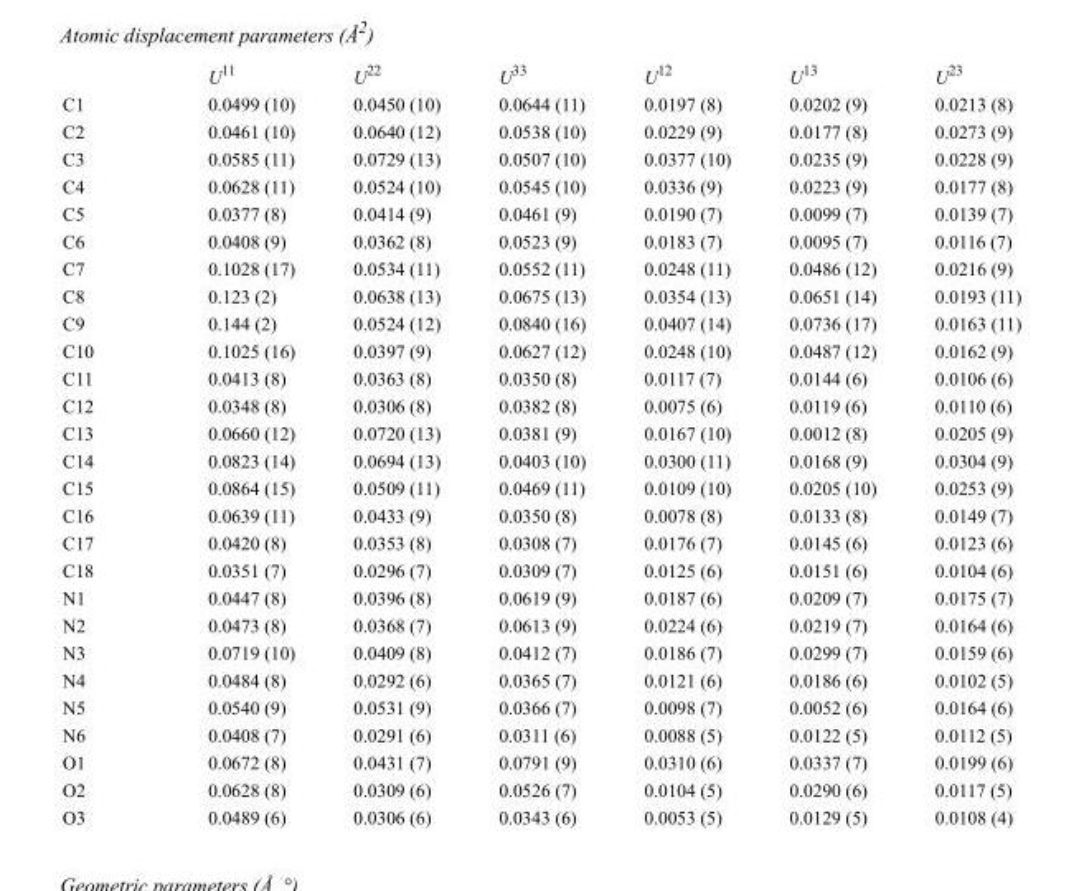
<table><thead><tr><td></td><td>U<sup>11</sup></td><td>U<sup>22</sup></td><td>U<sup>33</sup></td><td>U<sup>12</sup></td><td>U<sup>13</sup></td><td>U<sup>23</sup></td></tr></thead><tbody><tr><td>C1</td><td>0.0499 (10)</td><td>0.0450 (10)</td><td>0.0644 (11)</td><td>0.0197 (8)</td><td>0.0202 (9)</td><td>0.0213 (8)</td></tr><tr><td>C2</td><td>0.0461 (10)</td><td>0.0640 (12)</td><td>0.0538 (10)</td><td>0.0229 (9)</td><td>0.0177 (8)</td><td>0.0273 (9)</td></tr><tr><td>C3</td><td>0.0585 (11)</td><td>0.0729 (13)</td><td>0.0507 (10)</td><td>0.0377 (10)</td><td>0.0235 (9)</td><td>0.0228 (9)</td></tr><tr><td>C4</td><td>0.0628 (11)</td><td>0.0524 (10)</td><td>0.0545 (10)</td><td>0.0336 (9)</td><td>0.0223 (9)</td><td>0.0177 (8)</td></tr><tr><td>C5</td><td>0.0377 (8)</td><td>0.0414 (9)</td><td>0.0461 (9)</td><td>0.0190 (7)</td><td>0.0099 (7)</td><td>0.0139 (7)</td></tr><tr><td>C6</td><td>0.0408 (9)</td><td>0.0362 (8)</td><td>0.0523 (9)</td><td>0.0183 (7)</td><td>0.0095 (7)</td><td>0.0116 (7)</td></tr><tr><td>C7</td><td>0.1028 (17)</td><td>0.0534 (11)</td><td>0.0552 (11)</td><td>0.0248 (11)</td><td>0.0486 (12)</td><td>0.0216 (9)</td></tr><tr><td>C8</td><td>0.123 (2)</td><td>0.0638 (13)</td><td>0.0675 (13)</td><td>0.0354 (13)</td><td>0.0651 (14)</td><td>0.0193 (11)</td></tr><tr><td>C9</td><td>0.144 (2)</td><td>0.0524 (12)</td><td>0.0840 (16)</td><td>0.0407 (14)</td><td>0.0736 (17)</td><td>0.0163 (11)</td></tr><tr><td>C10</td><td>0.1025 (16)</td><td>0.0397 (9)</td><td>0.0627 (12)</td><td>0.0248 (10)</td><td>0.0487 (12)</td><td>0.0162 (9)</td></tr><tr><td>C11</td><td>0.0413 (8)</td><td>0.0363 (8)</td><td>0.0350 (8)</td><td>0.0117 (7)</td><td>0.0144 (6)</td><td>0.0106 (6)</td></tr><tr><td>C12</td><td>0.0348 (8)</td><td>0.0306 (8)</td><td>0.0382 (8)</td><td>0.0075 (6)</td><td>0.0119 (6)</td><td>0.0110 (6)</td></tr><tr><td>C13</td><td>0.0660 (12)</td><td>0.0720 (13)</td><td>0.0381 (9)</td><td>0.0167 (10)</td><td>0.0012 (8)</td><td>0.0205 (9)</td></tr><tr><td>C14</td><td>0.0823 (14)</td><td>0.0694 (13)</td><td>0.0403 (10)</td><td>0.0300 (11)</td><td>0.0168 (9)</td><td>0.0304 (9)</td></tr><tr><td>C15</td><td>0.0864 (15)</td><td>0.0509 (11)</td><td>0.0469 (11)</td><td>0.0109 (10)</td><td>0.0205 (10)</td><td>0.0253 (9)</td></tr><tr><td>C16</td><td>0.0639 (11)</td><td>0.0433 (9)</td><td>0.0350 (8)</td><td>0.0078 (8)</td><td>0.0133 (8)</td><td>0.0149 (7)</td></tr><tr><td>C17</td><td>0.0420 (8)</td><td>0.0353 (8)</td><td>0.0308 (7)</td><td>0.0176 (7)</td><td>0.0145 (6)</td><td>0.0123 (6)</td></tr><tr><td>C18</td><td>0.0351 (7)</td><td>0.0296 (7)</td><td>0.0309 (7)</td><td>0.0125 (6)</td><td>0.0151 (6)</td><td>0.0104 (6)</td></tr><tr><td>N1</td><td>0.0447 (8)</td><td>0.0396 (8)</td><td>0.0619 (9)</td><td>0.0187 (6)</td><td>0.0209 (7)</td><td>0.0175 (7)</td></tr><tr><td>N2</td><td>0.0473 (8)</td><td>0.0368 (7)</td><td>0.0613 (9)</td><td>0.0224 (6)</td><td>0.0219 (7)</td><td>0.0164 (6)</td></tr><tr><td>N3</td><td>0.0719 (10)</td><td>0.0409 (8)</td><td>0.0412 (7)</td><td>0.0186 (7)</td><td>0.0299 (7)</td><td>0.0159 (6)</td></tr><tr><td>N4</td><td>0.0484 (8)</td><td>0.0292 (6)</td><td>0.0365 (7)</td><td>0.0121 (6)</td><td>0.0186 (6)</td><td>0.0102 (5)</td></tr><tr><td>N5</td><td>0.0540 (9)</td><td>0.0531 (9)</td><td>0.0366 (7)</td><td>0.0098 (7)</td><td>0.0052 (6)</td><td>0.0164 (6)</td></tr><tr><td>N6</td><td>0.0408 (7)</td><td>0.0291 (6)</td><td>0.0311 (6)</td><td>0.0088 (5)</td><td>0.0122 (5)</td><td>0.0112 (5)</td></tr><tr><td>O1</td><td>0.0672 (8)</td><td>0.0431 (7)</td><td>0.0791 (9)</td><td>0.0310 (6)</td><td>0.0337 (7)</td><td>0.0199 (6)</td></tr><tr><td>O2</td><td>0.0628 (8)</td><td>0.0309 (6)</td><td>0.0526 (7)</td><td>0.0104 (5)</td><td>0.0290 (6)</td><td>0.0117 (5)</td></tr><tr><td>O3</td><td>0.0489 (6)</td><td>0.0306 (6)</td><td>0.0343 (6)</td><td>0.0053 (5)</td><td>0.0129 (5)</td><td>0.0108 (4)</td></tr></tbody></table>